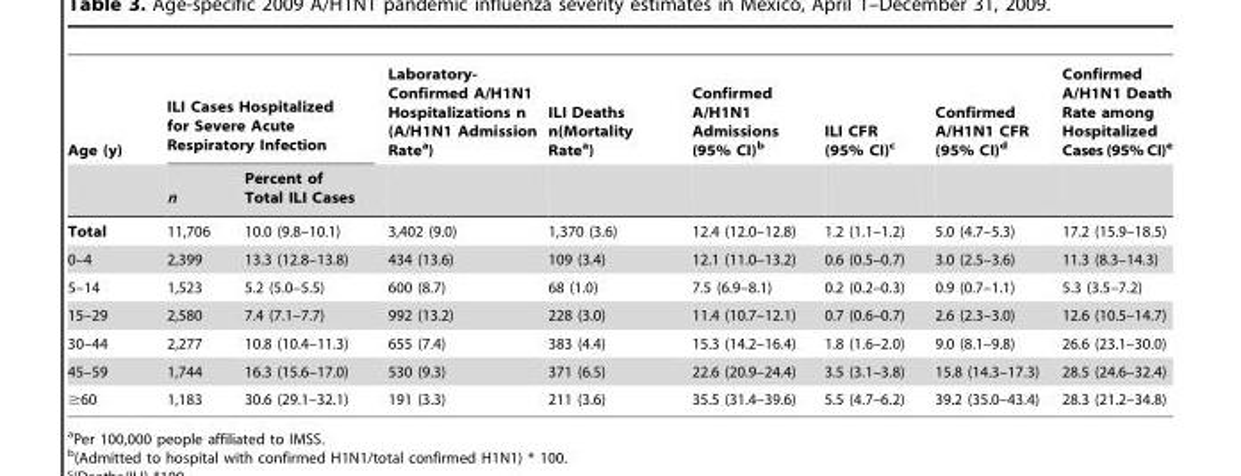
<table><thead><tr><td rowspan="2">Age (y)</td><td colspan="2">ILI Cases Hospitalized for Severe Acute Respiratory Infection</td><td rowspan="2">Laboratory- Confirmed A/H1N1 Hospitalizations n (A/H1N1 Admission Rate<sup>a</sup>)</td><td rowspan="2">ILI Deaths n(Mortality Rate<sup>a</sup>)</td><td rowspan="2">Confirmed A/H1N1 Admissions (95% CI)<sup>b</sup></td><td rowspan="2">ILI CFR (95% CI)<sup>c</sup></td><td rowspan="2">Confirmed A/H1N1 CFR (95% CI)<sup>d</sup></td><td rowspan="2">Confirmed A/H1N1 Death Rate among Hospitalized Cases (95% CI)<sup>e</sup></td></tr><tr><td>n</td><td>Percent of Total ILI Cases</td></tr></thead><tbody><tr><td>Total</td><td>11,706</td><td>10.0 (9.8–10.1)</td><td>3,402 (9.0)</td><td>1,370 (3.6)</td><td>12.4 (12.0–12.8)</td><td>1.2 (1.1–1.2)</td><td>5.0 (4.7–5.3)</td><td>17.2 (15.9–18.5)</td></tr><tr><td>0–4</td><td>2,399</td><td>13.3 (12.8–13.8)</td><td>434 (13.6)</td><td>109 (3.4)</td><td>12.1 (11.0–13.2)</td><td>0.6 (0.5–0.7)</td><td>3.0 (2.5–3.6)</td><td>11.3 (8.3–14.3)</td></tr><tr><td>5–14</td><td>1,523</td><td>5.2 (5.0–5.5)</td><td>600 (8.7)</td><td>68 (1.0)</td><td>7.5 (6.9–8.1)</td><td>0.2 (0.2–0.3)</td><td>0.9 (0.7–1.1)</td><td>5.3 (3.5–7.2)</td></tr><tr><td>15–29</td><td>2,580</td><td>7.4 (7.1–7.7)</td><td>992 (13.2)</td><td>228 (3.0)</td><td>11.4 (10.7–12.1)</td><td>0.7 (0.6–0.7)</td><td>2.6 (2.3–3.0)</td><td>12.6 (10.5–14.7)</td></tr><tr><td>30–44</td><td>2,277</td><td>10.8 (10.4–11.3)</td><td>655 (7.4)</td><td>383 (4.4)</td><td>15.3 (14.2–16.4)</td><td>1.8 (1.6–2.0)</td><td>9.0 (8.1–9.8)</td><td>26.6 (23.1–30.0)</td></tr><tr><td>45–59</td><td>1,744</td><td>16.3 (15.6–17.0)</td><td>530 (9.3)</td><td>371 (6.5)</td><td>22.6 (20.9–24.4)</td><td>3.5 (3.1–3.8)</td><td>15.8 (14.3–17.3)</td><td>28.5 (24.6–32.4)</td></tr><tr><td>≥60</td><td>1,183</td><td>30.6 (29.1–32.1)</td><td>191 (3.3)</td><td>211 (3.6)</td><td>35.5 (31.4–39.6)</td><td>5.5 (4.7–6.2)</td><td>39.2 (35.0–43.4)</td><td>28.3 (21.2–34.8)</td></tr></tbody></table>